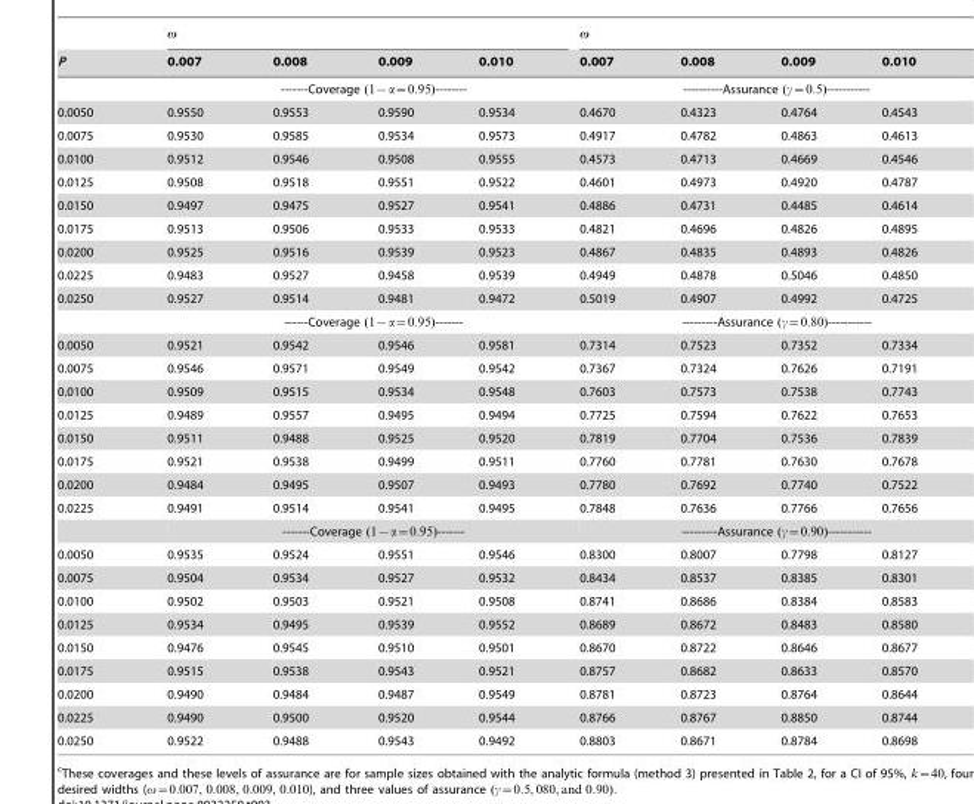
<table><thead><tr><td>P</td><td>0.007</td><td>0.008</td><td>0.009</td><td>0.010</td><td>0.007</td><td>0.008</td><td>0.009</td><td>0.010</td></tr></thead><tbody><tr><td></td><td colspan="4">-------Coverage (1{a~0:95)--------</td><td colspan="4">----------Assurance (c~0:5)-----------</td></tr><tr><td>0.0050</td><td>0.9550</td><td>0.9553</td><td>0.9590</td><td>0.9534</td><td>0.4670</td><td>0.4323</td><td>0.4764</td><td>0.4543</td></tr><tr><td>0.0075</td><td>0.9530</td><td>0.9585</td><td>0.9534</td><td>0.9573</td><td>0.4917</td><td>0.4782</td><td>0.4863</td><td>0.4613</td></tr><tr><td>0.0100</td><td>0.9512</td><td>0.9546</td><td>0.9508</td><td>0.9555</td><td>0.4573</td><td>0.4713</td><td>0.4669</td><td>0.4546</td></tr><tr><td>0.0125</td><td>0.9508</td><td>0.9518</td><td>0.9551</td><td>0.9522</td><td>0.4601</td><td>0.4973</td><td>0.4920</td><td>0.4787</td></tr><tr><td>0.0150</td><td>0.9497</td><td>0.9475</td><td>0.9527</td><td>0.9541</td><td>0.4886</td><td>0.4731</td><td>0.4485</td><td>0.4614</td></tr><tr><td>0.0175</td><td>0.9513</td><td>0.9506</td><td>0.9533</td><td>0.9533</td><td>0.4821</td><td>0.4696</td><td>0.4826</td><td>0.4895</td></tr><tr><td>0.0200</td><td>0.9525</td><td>0.9516</td><td>0.9539</td><td>0.9523</td><td>0.4867</td><td>0.4835</td><td>0.4893</td><td>0.4826</td></tr><tr><td>0.0225</td><td>0.9483</td><td>0.9527</td><td>0.9458</td><td>0.9539</td><td>0.4949</td><td>0.4878</td><td>0.5046</td><td>0.4850</td></tr><tr><td rowspan="2">0.0250</td><td>0.9527</td><td>0.9514</td><td>0.9481</td><td>0.9472</td><td>0.5019</td><td>0.4907</td><td>0.4992</td><td>0.4725</td></tr><tr><td colspan="4">------Coverage (1{a~0:95)-------</td><td colspan="4">---------Assurance (c~0:80)-----------</td></tr><tr><td>0.0050</td><td>0.9521</td><td>0.9542</td><td>0.9546</td><td>0.9581</td><td>0.7314</td><td>0.7523</td><td>0.7352</td><td>0.7334</td></tr><tr><td>0.0075</td><td>0.9546</td><td>0.9571</td><td>0.9549</td><td>0.9542</td><td>0.7367</td><td>0.7324</td><td>0.7626</td><td>0.7191</td></tr><tr><td>0.0100</td><td>0.9509</td><td>0.9515</td><td>0.9534</td><td>0.9548</td><td>0.7603</td><td>0.7573</td><td>0.7538</td><td>0.7743</td></tr><tr><td>0.0125</td><td>0.9489</td><td>0.9557</td><td>0.9495</td><td>0.9494</td><td>0.7725</td><td>0.7594</td><td>0.7622</td><td>0.7653</td></tr><tr><td>0.0150</td><td>0.9511</td><td>0.9488</td><td>0.9525</td><td>0.9520</td><td>0.7819</td><td>0.7704</td><td>0.7536</td><td>0.7839</td></tr><tr><td>0.0175</td><td>0.9521</td><td>0.9538</td><td>0.9499</td><td>0.9511</td><td>0.7760</td><td>0.7781</td><td>0.7630</td><td>0.7678</td></tr><tr><td>0.0200</td><td>0.9484</td><td>0.9495</td><td>0.9507</td><td>0.9493</td><td>0.7780</td><td>0.7692</td><td>0.7740</td><td>0.7522</td></tr><tr><td rowspan="2">0.0225</td><td>0.9491</td><td>0.9514</td><td>0.9541</td><td>0.9495</td><td>0.7848</td><td>0.7636</td><td>0.7766</td><td>0.7656</td></tr><tr><td colspan="4">-------Coverage (1{a~0:95)-------</td><td colspan="4">---------Assurance (c~0:90)-----------</td></tr><tr><td>0.0050</td><td>0.9535</td><td>0.9524</td><td>0.9551</td><td>0.9546</td><td>0.8300</td><td>0.8007</td><td>0.7798</td><td>0.8127</td></tr><tr><td>0.0075</td><td>0.9504</td><td>0.9534</td><td>0.9527</td><td>0.9532</td><td>0.8434</td><td>0.8537</td><td>0.8385</td><td>0.8301</td></tr><tr><td>0.0100</td><td>0.9502</td><td>0.9503</td><td>0.9521</td><td>0.9508</td><td>0.8741</td><td>0.8686</td><td>0.8384</td><td>0.8583</td></tr><tr><td>0.0125</td><td>0.9534</td><td>0.9495</td><td>0.9539</td><td>0.9552</td><td>0.8689</td><td>0.8672</td><td>0.8483</td><td>0.8580</td></tr><tr><td>0.0150</td><td>0.9476</td><td>0.9545</td><td>0.9510</td><td>0.9501</td><td>0.8670</td><td>0.8722</td><td>0.8646</td><td>0.8677</td></tr><tr><td>0.0175</td><td>0.9515</td><td>0.9538</td><td>0.9543</td><td>0.9521</td><td>0.8757</td><td>0.8682</td><td>0.8633</td><td>0.8570</td></tr><tr><td>0.0200</td><td>0.9490</td><td>0.9484</td><td>0.9487</td><td>0.9549</td><td>0.8781</td><td>0.8723</td><td>0.8764</td><td>0.8644</td></tr><tr><td>0.0225</td><td>0.9490</td><td>0.9500</td><td>0.9520</td><td>0.9544</td><td>0.8766</td><td>0.8767</td><td>0.8850</td><td>0.8744</td></tr><tr><td>0.0250</td><td>0.9522</td><td>0.9488</td><td>0.9543</td><td>0.9492</td><td>0.8803</td><td>0.8671</td><td>0.8784</td><td>0.8698</td></tr></tbody></table>